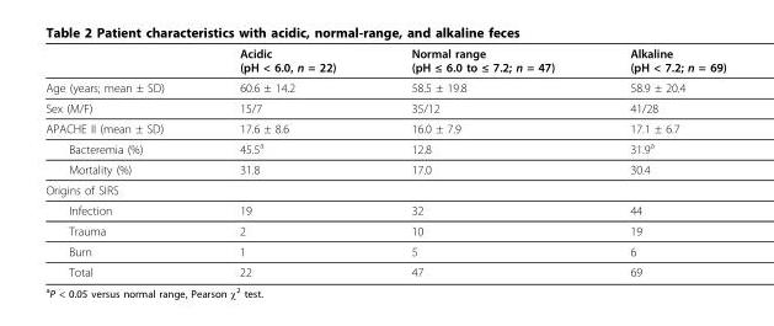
<table><thead><tr><td></td><td>Acidic (pH &lt; 6.0, n = 22)</td><td>Normal range (pH ≤ 6.0 to ≤ 7.2; n = 47)</td><td>Alkaline (pH &lt; 7.2; n = 69)</td></tr></thead><tbody><tr><td>Age (years; mean ± SD)</td><td>60.6 ± 14.2</td><td>58.5 ± 19.8</td><td>58.9 ± 20.4</td></tr><tr><td>Sex (M/F)</td><td>15/7</td><td>35/12</td><td>41/28</td></tr><tr><td>APACHE II (mean ± SD)</td><td>17.6 ± 8.6</td><td>16.0 ± 7.9</td><td>17.1 ± 6.7</td></tr><tr><td>Bacteremia (%)</td><td>45.5<sup>a</sup></td><td>12.8</td><td>31.9<sup>a</sup></td></tr><tr><td>Mortality (%)</td><td>31.8</td><td>17.0</td><td>30.4</td></tr><tr><td colspan="4">Origins of SIRS</td></tr><tr><td>Infection</td><td>19</td><td>32</td><td>44</td></tr><tr><td>Trauma</td><td>2</td><td>10</td><td>19</td></tr><tr><td>Burn</td><td>1</td><td>5</td><td>6</td></tr><tr><td>Total</td><td>22</td><td>47</td><td>69</td></tr></tbody></table>